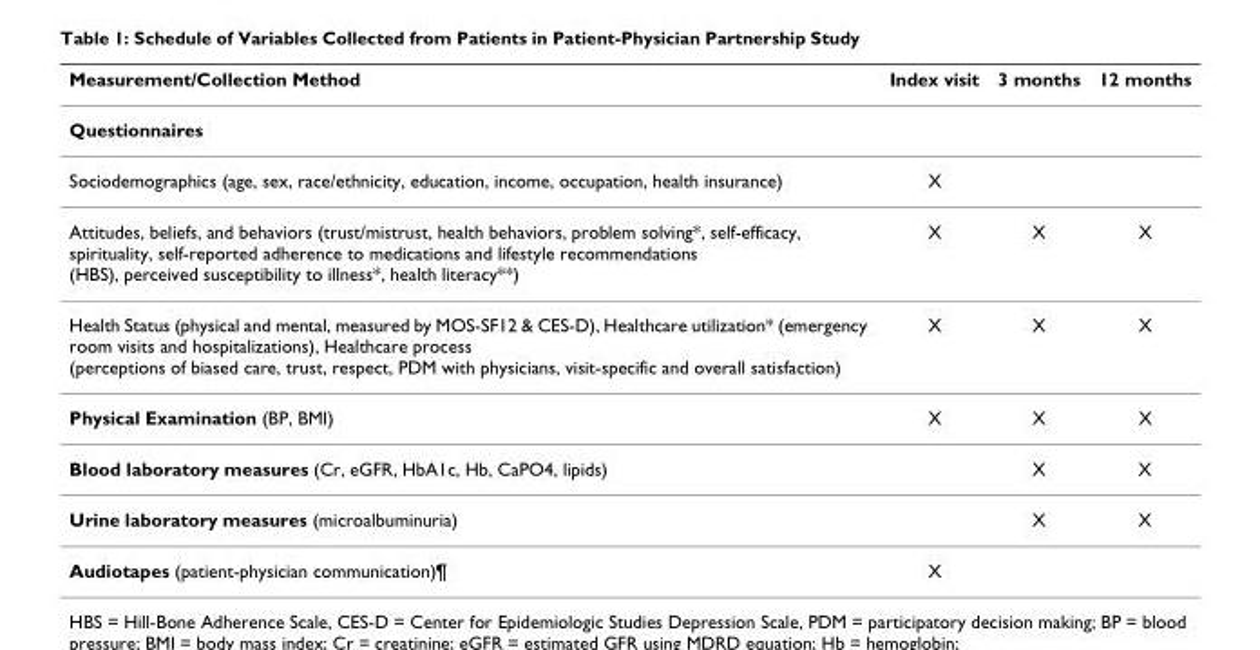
<table><thead><tr><td>Measurement/Collection Method</td><td>Index visit</td><td>3 months</td><td>12 months</td></tr></thead><tbody><tr><td colspan="4">Questionnaires</td></tr><tr><td>Sociodemographics (age, sex, race/ethnicity, education, income, occupation, health insurance)</td><td>X</td><td></td><td></td></tr><tr><td>Attitudes, beliefs, and behaviors (trust/mistrust, health behaviors, problem solving*, self-efficacy, spirituality, self-reported adherence to medications and lifestyle recommendations (HBS), perceived susceptibility to illness*, health literacy**)</td><td>X</td><td>X</td><td>X</td></tr><tr><td>Health Status (physical and mental, measured by MOS-SF12 &amp; CES-D), Healthcare utilization* (emergency room visits and hospitalizations), Healthcare process (perceptions of biased care, trust, respect, PDM with physicians, visit-specific and overall satisfaction)</td><td>X</td><td>X</td><td>X</td></tr><tr><td>Physical Examination (BP, BMI)</td><td>X</td><td>X</td><td>X</td></tr><tr><td>Blood laboratory measures (Cr, eGFR, HbA1c, Hb, CaPO4, lipids)</td><td></td><td>X</td><td>X</td></tr><tr><td>Urine laboratory measures (microalbuminuria)</td><td></td><td>X</td><td>X</td></tr><tr><td>Audiotapes (patient-physician communication)¶</td><td>X</td><td></td><td></td></tr></tbody></table>